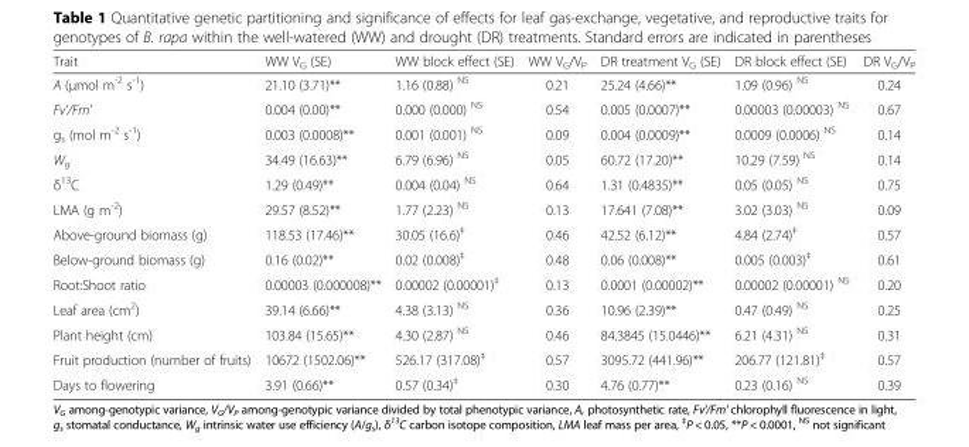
<table><thead><tr><td>Trait</td><td>WW V<sub>G</sub> (SE)</td><td>WW block effect (SE)</td><td>WW V<sub>G</sub>/V<sub>P</sub></td><td>DR treatment V<sub>G</sub> (SE)</td><td>DR block effect (SE)</td><td>DR V<sub>G</sub>/V<sub>P</sub></td></tr></thead><tbody><tr><td>A (μmol m<sup>-2</sup> s<sup>-1</sup>)</td><td>21.10 (3.71)**</td><td>1.16 (0.88) <sup>NS</sup></td><td>0.21</td><td>25.24 (4.66)**</td><td>1.09 (0.96) <sup>NS</sup></td><td>0.24</td></tr><tr><td>Fv&#x27;/Fm&#x27;</td><td>0.004 (0.00)**</td><td>0.000 (0.000) <sup>NS</sup></td><td>0.54</td><td>0.005 (0.0007)**</td><td>0.00003 (0.00003) <sup>NS</sup></td><td>0.67</td></tr><tr><td>g<sub>s</sub> (mol m<sup>-2</sup> s<sup>-1</sup>)</td><td>0.003 (0.0008)**</td><td>0.001 (0.001) <sup>NS</sup></td><td>0.09</td><td>0.004 (0.0009)**</td><td>0.0009 (0.0006) <sup>NS</sup></td><td>0.14</td></tr><tr><td>W<sub>g</sub></td><td>34.49 (16.63)**</td><td>6.79 (6.96) <sup>NS</sup></td><td>0.05</td><td>60.72 (17.20)**</td><td>10.29 (7.59) <sup>NS</sup></td><td>0.14</td></tr><tr><td>δ<sup>13</sup>C</td><td>1.29 (0.49)**</td><td>0.004 (0.04) <sup>NS</sup></td><td>0.64</td><td>1.31 (0.4835)**</td><td>0.05 (0.05) <sup>NS</sup></td><td>0.75</td></tr><tr><td>LMA (g m<sup>-2</sup>)</td><td>29.57 (8.52)**</td><td>1.77 (2.23) <sup>NS</sup></td><td>0.13</td><td>17.641 (7.08)**</td><td>3.02 (3.03) <sup>NS</sup></td><td>0.09</td></tr><tr><td>Above-ground biomass (g)</td><td>118.53 (17.46)**</td><td>30.05 (16.6)<sup>‡</sup></td><td>0.46</td><td>42.52 (6.12)**</td><td>4.84 (2.74)<sup>‡</sup></td><td>0.57</td></tr><tr><td>Below-ground biomass (g)</td><td>0.16 (0.02)**</td><td>0.02 (0.008)<sup>‡</sup></td><td>0.48</td><td>0.06 (0.008)**</td><td>0.005 (0.003)<sup>‡</sup></td><td>0.61</td></tr><tr><td>Root:Shoot ratio</td><td>0.00003 (0.000008)**</td><td>0.00002 (0.00001)<sup>‡</sup></td><td>0.13</td><td>0.0001 (0.00002)**</td><td>0.00002 (0.00001) <sup>NS</sup></td><td>0.20</td></tr><tr><td>Leaf area (cm<sup>2</sup>)</td><td>39.14 (6.66)**</td><td>4.38 (3.13) <sup>NS</sup></td><td>0.36</td><td>10.96 (2.39)**</td><td>0.47 (0.49) <sup>NS</sup></td><td>0.25</td></tr><tr><td>Plant height (cm)</td><td>103.84 (15.65)**</td><td>4.30 (2.87) <sup>NS</sup></td><td>0.46</td><td>84.3845 (15.0446)**</td><td>6.21 (4.31) <sup>NS</sup></td><td>0.31</td></tr><tr><td>Fruit production (number of fruits)</td><td>10672 (1502.06)**</td><td>526.17 (317.08)<sup>‡</sup></td><td>0.57</td><td>3095.72 (441.96)**</td><td>206.77 (121.81)<sup>‡</sup></td><td>0.57</td></tr><tr><td>Days to flowering</td><td>3.91 (0.66)**</td><td>0.57 (0.34)<sup>‡</sup></td><td>0.30</td><td>4.76 (0.77)**</td><td>0.23 (0.16) <sup>NS</sup></td><td>0.39</td></tr></tbody></table>